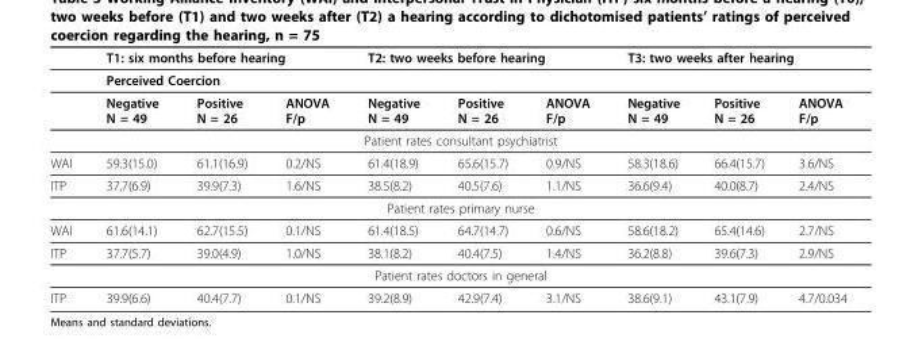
<table><thead><tr><td rowspan="3"></td><td colspan="3">T1: six months before hearing</td><td colspan="3">T2: two weeks before hearing</td><td colspan="3">T3: two weeks after hearing</td></tr><tr><td colspan="9">Perceived Coercion</td></tr><tr><td>Negative N = 49</td><td>Positive N = 26</td><td>ANOVA F/p</td><td>Negative N = 49</td><td>Positive N = 26</td><td>ANOVA F/p</td><td>Negative N = 49</td><td>Positive N = 26</td><td>ANOVA F/p</td></tr></thead><tbody><tr><td colspan="10">Patient rates consultant psychiatrist</td></tr><tr><td>WAI</td><td>59.3(15.0)</td><td>61.1(16.9)</td><td>0.2/NS</td><td>61.4(18.9)</td><td>65.6(15.7)</td><td>0.9/NS</td><td>58.3(18.6)</td><td>66.4(15.7)</td><td>3.6/NS</td></tr><tr><td>ITP</td><td>37,7(6.9)</td><td>39.9(7.3)</td><td>1.6/NS</td><td>38.5(8.2)</td><td>40.5(7.6)</td><td>1.1/NS</td><td>36.6(9.4)</td><td>40.0(8.7)</td><td>2.4/NS</td></tr><tr><td colspan="10">Patient rates primary nurse</td></tr><tr><td>WAI</td><td>61.6(14.1)</td><td>62.7(15.5)</td><td>0.1/NS</td><td>61.4(18.5)</td><td>64.7(14.7)</td><td>0.6/NS</td><td>58.6(18.2)</td><td>65.4(14.6)</td><td>2.7/NS</td></tr><tr><td>ITP</td><td>37.7(5.7)</td><td>39.0(4.9)</td><td>1.0/NS</td><td>38.1(8.2)</td><td>40.4(7.5)</td><td>1.4/NS</td><td>36.2(8.8)</td><td>39.6(7.3)</td><td>2.9/NS</td></tr><tr><td colspan="10">Patient rates doctors in general</td></tr><tr><td>ITP</td><td>39.9(6.6)</td><td>40.4(7.7)</td><td>0.1/NS</td><td>39.2(8.9)</td><td>42.9(7.4)</td><td>3.1/NS</td><td>38.6(9.1)</td><td>43.1(7.9)</td><td>4.7/0.034</td></tr></tbody></table>